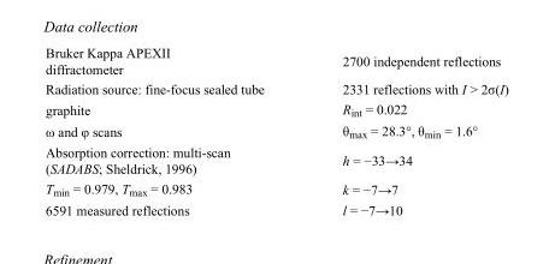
<table><tbody><tr><td>Bruker Kappa APEXII diffractometer</td><td>2700 independent reflections</td></tr><tr><td>Radiation source: fine-focus sealed tube</td><td>2331 reflections with I &gt; 2σ(I)</td></tr><tr><td>graphite</td><td>R<sub>int</sub> = 0.022</td></tr><tr><td>ω and φ scans</td><td>θ<sub>max</sub> = 28.3°, θ<sub>min</sub> = 1.6°</td></tr><tr><td>Absorption correction: multi-scan (SADABS; Sheldrick, 1996)</td><td>h = −33→34</td></tr><tr><td>T<sub>min</sub> = 0.979, T<sub>max</sub> = 0.983</td><td>k = −7→7</td></tr><tr><td>6591 measured reflections</td><td>l = −7→10</td></tr></tbody></table>